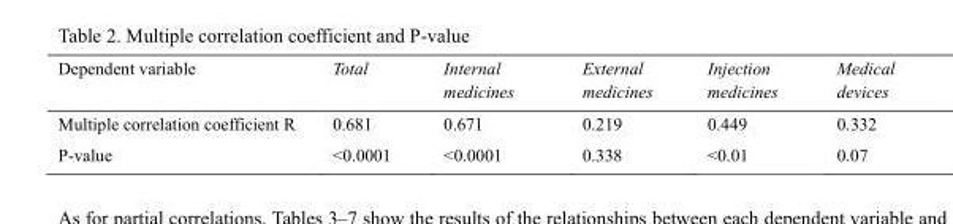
<table><thead><tr><td>Dependent variable</td><td>Total</td><td>Internal medicines</td><td>External medicines</td><td>Injection medicines</td><td>Medical devices</td></tr></thead><tbody><tr><td>Multiple correlation coefficient R</td><td>0.681</td><td>0.671</td><td>0.219</td><td>0.449</td><td>0.332</td></tr><tr><td>P-value</td><td>&lt;0.0001</td><td>&lt;0.0001</td><td>0.338</td><td>&lt;0.01</td><td>0.07</td></tr></tbody></table>